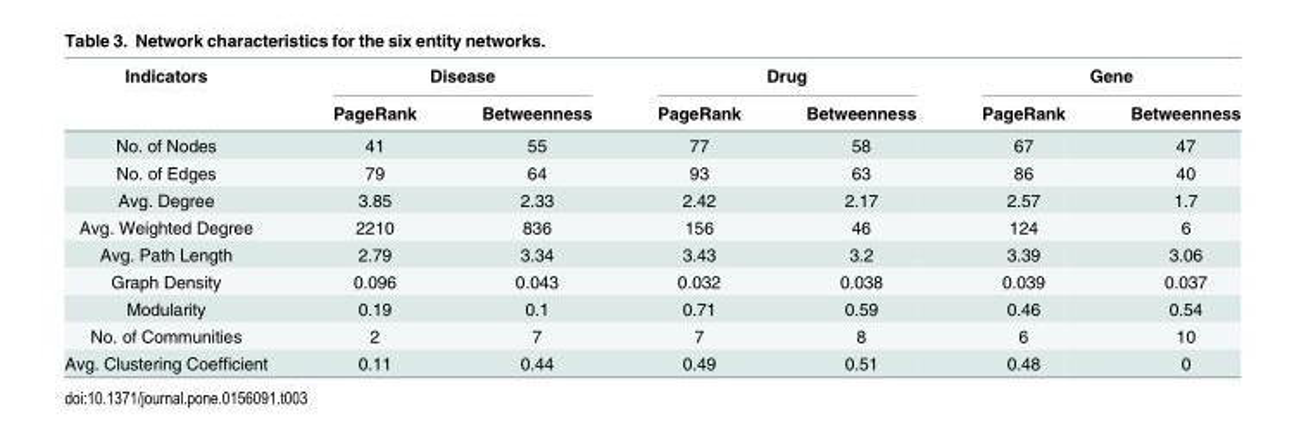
<table><thead><tr><td rowspan="2">Indicators</td><td colspan="2">Disease</td><td colspan="2">Drug</td><td colspan="2">Gene</td></tr><tr><td>PageRank</td><td>Betweenness</td><td>PageRank</td><td>Betweenness</td><td>PageRank</td><td>Betweenness</td></tr></thead><tbody><tr><td>No. of Nodes</td><td>41</td><td>55</td><td>77</td><td>58</td><td>67</td><td>47</td></tr><tr><td>No. of Edges</td><td>79</td><td>64</td><td>93</td><td>63</td><td>86</td><td>40</td></tr><tr><td>Avg. Degree</td><td>3.85</td><td>2.33</td><td>2.42</td><td>2.17</td><td>2.57</td><td>1.7</td></tr><tr><td>Avg. Weighted Degree</td><td>2210</td><td>836</td><td>156</td><td>46</td><td>124</td><td>6</td></tr><tr><td>Avg. Path Length</td><td>2.79</td><td>3.34</td><td>3.43</td><td>3.2</td><td>3.39</td><td>3.06</td></tr><tr><td>Graph Density</td><td>0.096</td><td>0.043</td><td>0.032</td><td>0.038</td><td>0.039</td><td>0.037</td></tr><tr><td>Modularity</td><td>0.19</td><td>0.1</td><td>0.71</td><td>0.59</td><td>0.46</td><td>0.54</td></tr><tr><td>No. of Communities</td><td>2</td><td>7</td><td>7</td><td>8</td><td>6</td><td>10</td></tr><tr><td>Avg. Clustering Coefficient</td><td>0.11</td><td>0.44</td><td>0.49</td><td>0.51</td><td>0.48</td><td>0</td></tr></tbody></table>